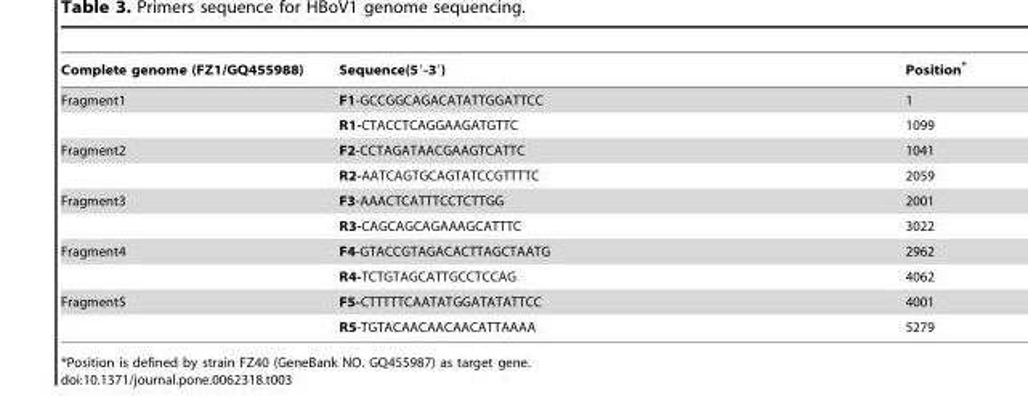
<table><thead><tr><td>Complete genome (FZ1/GQ455988)</td><td>Sequence(5′-3′)</td><td>Position*</td></tr></thead><tbody><tr><td rowspan="2">Fragment1</td><td>F1-GCCGGCAGACATATTGGATTCC</td><td>1</td></tr><tr><td>R1-CTACCTCAGGAAGATGTTC</td><td>1099</td></tr><tr><td rowspan="2">Fragment2</td><td>F2-CCTAGATAACGAAGTCATTC</td><td>1041</td></tr><tr><td>R2-AATCAGTGCAGTATCCGTTTTC</td><td>2059</td></tr><tr><td rowspan="2">Fragment3</td><td>F3-AAACTCATTTCCTCTTGG</td><td>2001</td></tr><tr><td>R3-CAGCAGCAGAAAGCATTTC</td><td>3022</td></tr><tr><td rowspan="2">Fragment4</td><td>F4-GTACCGTAGACACTTAGCTAATG</td><td>2962</td></tr><tr><td>R4-TCTGTAGCATTGCCTCCAG</td><td>4062</td></tr><tr><td rowspan="2">Fragment5</td><td>F5-CTTTTTCAATATGGATATATTCC</td><td>4001</td></tr><tr><td>R5-TGTACAACAACAACATTAAAA</td><td>5279</td></tr></tbody></table>